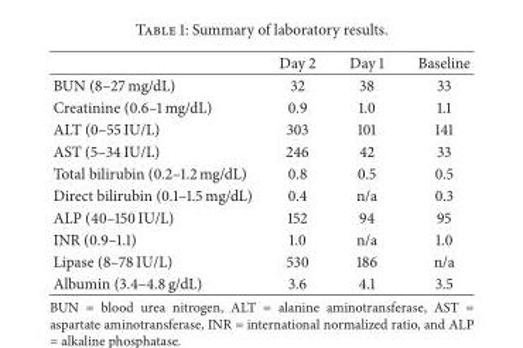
<table><thead><tr><td></td><td>Day 2</td><td>Day 1</td><td>Baseline</td></tr></thead><tbody><tr><td>BUN (8–27 mg/dL)</td><td>32</td><td>38</td><td>33</td></tr><tr><td>Creatinine (0.6–1 mg/dL)</td><td>0.9</td><td>1.0</td><td>1.1</td></tr><tr><td>ALT (0–55 IU/L)</td><td>303</td><td>101</td><td>141</td></tr><tr><td>AST (5–34 IU/L)</td><td>246</td><td>42</td><td>33</td></tr><tr><td>Total bilirubin (0.2–1.2 mg/dL)</td><td>0.8</td><td>0.5</td><td>0.5</td></tr><tr><td>Direct bilirubin (0.1–1.5 mg/dL)</td><td>0.4</td><td>n/a</td><td>0.3</td></tr><tr><td>ALP (40–150 IU/L)</td><td>152</td><td>94</td><td>95</td></tr><tr><td>INR (0.9–1.1)</td><td>1.0</td><td>n/a</td><td>1.0</td></tr><tr><td>Lipase (8–78 IU/L)</td><td>530</td><td>186</td><td>n/a</td></tr><tr><td>Albumin (3.4–4.8 g/dL)</td><td>3.6</td><td>4.1</td><td>3.5</td></tr></tbody></table>